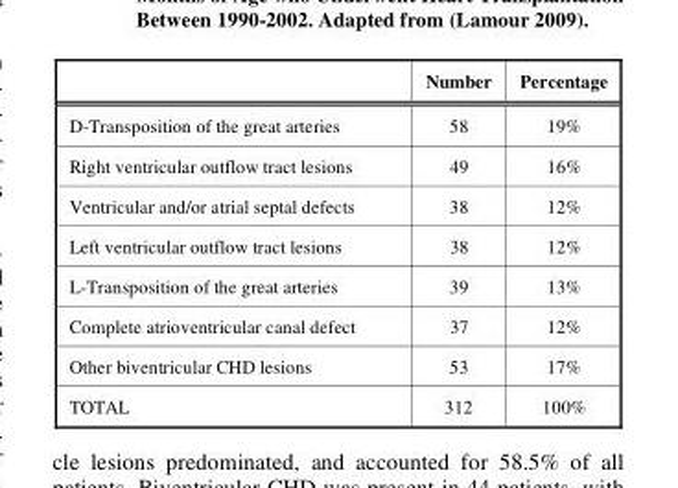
<table><thead><tr><td></td><td>Number</td><td>Percentage</td></tr></thead><tbody><tr><td>D-Transposition of the great arteries</td><td>58</td><td>19%</td></tr><tr><td>Right ventricular outflow tract lesions</td><td>49</td><td>16%</td></tr><tr><td>Ventricular and/or atrial septal defects</td><td>38</td><td>12%</td></tr><tr><td>Left ventricular outflow tract lesions</td><td>38</td><td>12%</td></tr><tr><td>L-Transposition of the great arteries</td><td>39</td><td>13%</td></tr><tr><td>Complete atrioventricular canal defect</td><td>37</td><td>12%</td></tr><tr><td>Other biventricular CHD lesions</td><td>53</td><td>17%</td></tr><tr><td>TOTAL</td><td>312</td><td>100%</td></tr></tbody></table>